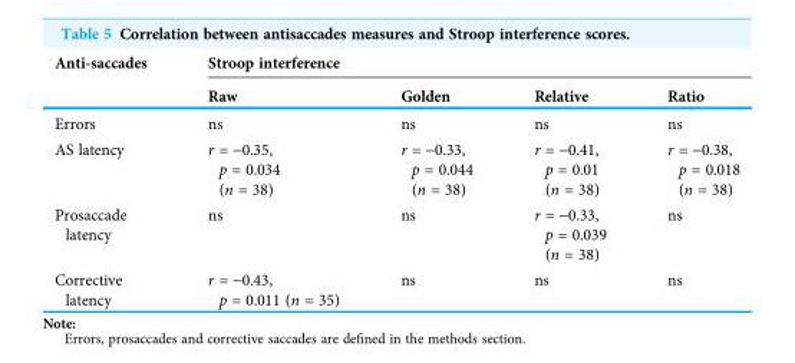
<table><thead><tr><td rowspan="2">Anti-saccades</td><td colspan="4">Stroop interference</td></tr><tr><td>Raw</td><td>Golden</td><td>Relative</td><td>Ratio</td></tr></thead><tbody><tr><td>Errors</td><td>ns</td><td>ns</td><td>ns</td><td>ns</td></tr><tr><td>AS latency</td><td>r = -0.35, p = 0.034 (n = 38)</td><td>r = -0.33, p = 0.044 (n = 38)</td><td>r = -0.41, p = 0.01 (n = 38)</td><td>r = -0.38, p = 0.018 (n = 38)</td></tr><tr><td>Prosaccade latency</td><td>ns</td><td>ns</td><td>r = -0.33, p = 0.039 (n = 38)</td><td>ns</td></tr><tr><td>Corrective latency</td><td>r = -0.43, p = 0.011 (n = 35)</td><td>ns</td><td>ns</td><td>ns</td></tr></tbody></table>